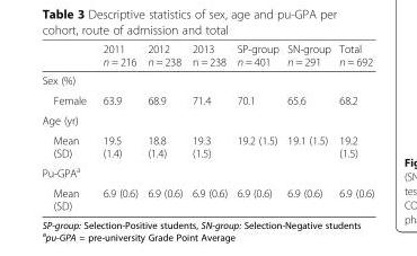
<table><thead><tr><td></td><td>2011 n = 216</td><td>2012 n = 238</td><td>2013 n = 238</td><td>SP-group n = 401</td><td>SN-group n = 291</td><td>Total n = 692</td></tr></thead><tbody><tr><td colspan="7">Sex (%)</td></tr><tr><td>Female</td><td>63.9</td><td>68.9</td><td>71.4</td><td>70.1</td><td>65.6</td><td>68.2</td></tr><tr><td colspan="7">Age (yr)</td></tr><tr><td>Mean (SD)</td><td>19.5 (1.4)</td><td>18.8 (1.4)</td><td>19.3 (1.5)</td><td>19.2 (1.5)</td><td>19.1 (1.5)</td><td>19.2 (1.5)</td></tr><tr><td colspan="7">Pu-GPA<sup>a</sup></td></tr><tr><td>Mean (SD)</td><td>6.9 (0.6)</td><td>6.9 (0.6)</td><td>6.9 (0.6)</td><td>6.9 (0.6)</td><td>6.9 (0.6)</td><td>6.9 (0.6)</td></tr></tbody></table>